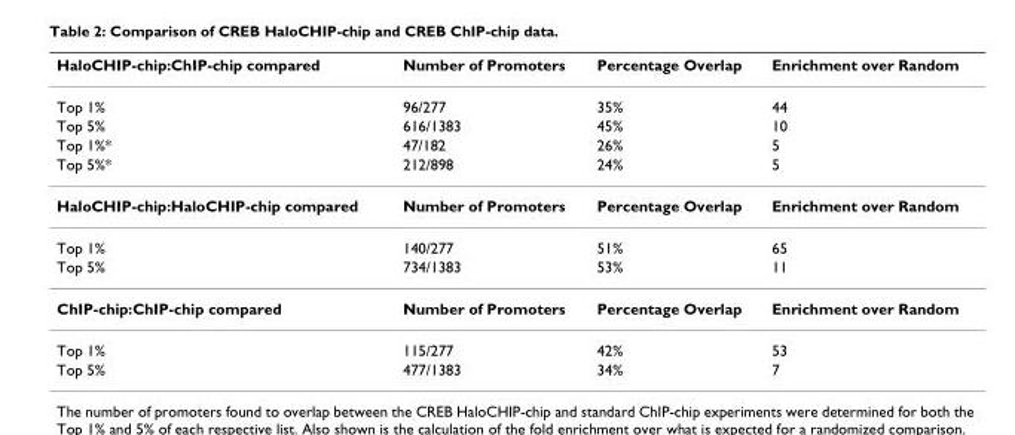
<table><thead><tr><td>HaloCHIP-chip:ChIP-chip compared</td><td>Number of Promoters</td><td>Percentage Overlap</td><td>Enrichment over Random</td></tr></thead><tbody><tr><td>Top 1%</td><td>96/277</td><td>35%</td><td>44</td></tr><tr><td>Top 5%</td><td>616/1383</td><td>45%</td><td>10</td></tr><tr><td>Top 1%*</td><td>47/182</td><td>26%</td><td>5</td></tr><tr><td>Top 5%*</td><td>212/898</td><td>24%</td><td>5</td></tr><tr><td>HaloCHIP-chip:HaloCHIP-chip compared</td><td>Number of Promoters</td><td>Percentage Overlap</td><td>Enrichment over Random</td></tr><tr><td>Top 1%</td><td>140/277</td><td>51%</td><td>65</td></tr><tr><td>Top 5%</td><td>734/1383</td><td>53%</td><td>11</td></tr><tr><td>ChIP-chip:ChIP-chip compared</td><td>Number of Promoters</td><td>Percentage Overlap</td><td>Enrichment over Random</td></tr><tr><td>Top 1%</td><td>115/277</td><td>42%</td><td>53</td></tr><tr><td>Top 5%</td><td>477/1383</td><td>34%</td><td>7</td></tr></tbody></table>